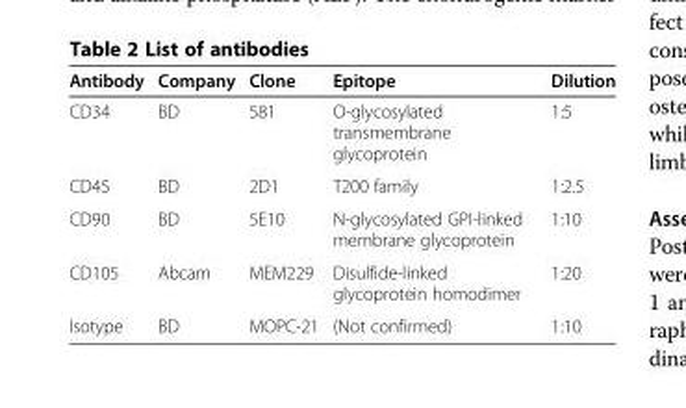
<table><thead><tr><td>Antibody</td><td>Company</td><td>Clone</td><td>Epitope</td><td>Dilution</td></tr></thead><tbody><tr><td>CD34</td><td>BD</td><td>581</td><td>O-glycosylated transmembrane glycoprotein</td><td>1:5</td></tr><tr><td>CD45</td><td>BD</td><td>2D1</td><td>T200 family</td><td>1:2.5</td></tr><tr><td>CD90</td><td>BD</td><td>5E10</td><td>N-glycosylated GPI-linked membrane glycoprotein</td><td>1:10</td></tr><tr><td>CD105</td><td>Abcam</td><td>MEM229</td><td>Disulfide-linked glycoprotein homodimer</td><td>1:20</td></tr><tr><td>Isotype</td><td>BD</td><td>MOPC-21</td><td>(Not confirmed)</td><td>1:10</td></tr></tbody></table>